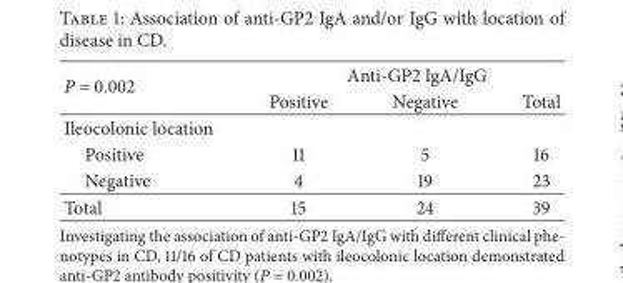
<table><thead><tr><td rowspan="2">P = 0.002</td><td colspan="3">Anti-GP2 IgA/IgG</td></tr><tr><td>Positive</td><td>Negative</td><td>Total</td></tr></thead><tbody><tr><td colspan="4">Ileocolonic location</td></tr><tr><td>Positive</td><td>11</td><td>5</td><td>16</td></tr><tr><td>Negative</td><td>4</td><td>19</td><td>23</td></tr><tr><td>Total</td><td>15</td><td>24</td><td>39</td></tr></tbody></table>